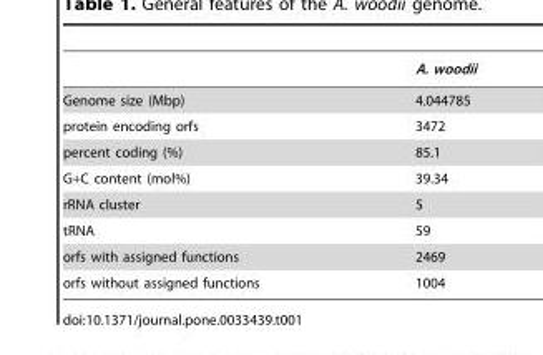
<table><thead><tr><td></td><td>A. woodii</td></tr></thead><tbody><tr><td>Genome size (Mbp)</td><td>4.044785</td></tr><tr><td>protein encoding orfs</td><td>3472</td></tr><tr><td>percent coding (%)</td><td>85.1</td></tr><tr><td>G+C content (mol%)</td><td>39.34</td></tr><tr><td>rRNA cluster</td><td>5</td></tr><tr><td>tRNA</td><td>59</td></tr><tr><td>orfs with assigned functions</td><td>2469</td></tr><tr><td>orfs without assigned functions</td><td>1004</td></tr></tbody></table>